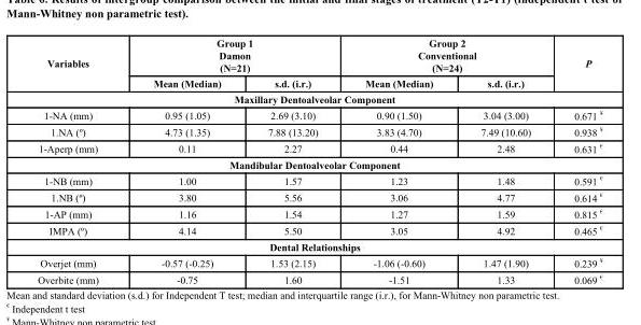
<table><thead><tr><td rowspan="2">Variables</td><td colspan="2">Group 1 Damon (N=21)</td><td colspan="2">Group 2 Conventional (N=24)</td><td rowspan="2">P</td></tr><tr><td>Mean (Median)</td><td>s.d. (i.r.)</td><td>Mean (Median)</td><td>s.d. (i.r.)</td></tr></thead><tbody><tr><td colspan="6">Maxillary Dentoalveolar Component</td></tr><tr><td>1-NA (mm)</td><td>0.95 (1.05)</td><td>2.69 (3.10)</td><td>0.90 (1.50)</td><td>3.04 (3.00)</td><td>0.671 <sup>¥</sup></td></tr><tr><td>1.NA (º)</td><td>4.73 (1.35)</td><td>7.88 (13.20)</td><td>3.83 (4.70)</td><td>7.49 (10.60)</td><td>0.938 <sup>¥</sup></td></tr><tr><td>1-Aperp (mm)</td><td>0.11</td><td>2.27</td><td>0.44</td><td>2.48</td><td>0.631 <sup>€</sup></td></tr><tr><td colspan="6">Mandibular Dentoalveolar Component</td></tr><tr><td>1-NB (mm)</td><td>1.00</td><td>1.57</td><td>1.23</td><td>1.48</td><td>0.591 <sup>€</sup></td></tr><tr><td>1.NB (º)</td><td>3.80</td><td>5.56</td><td>3.06</td><td>4.77</td><td>0.614 <sup>€</sup></td></tr><tr><td>1-AP (mm)</td><td>1.16</td><td>1.54</td><td>1.27</td><td>1.59</td><td>0.815 <sup>€</sup></td></tr><tr><td>IMPA (º)</td><td>4.14</td><td>5.50</td><td>3.05</td><td>4.92</td><td>0.465 <sup>€</sup></td></tr><tr><td colspan="6">Dental Relationships</td></tr><tr><td>Overjet (mm)</td><td>-0.57 (-0.25)</td><td>1.53 (2.15)</td><td>-1.06 (-0.60)</td><td>1.47 (1.90)</td><td>0.239 <sup>¥</sup></td></tr><tr><td>Overbite (mm)</td><td>-0.75</td><td>1.60</td><td>-1.51</td><td>1.33</td><td>0.069 <sup>€</sup></td></tr></tbody></table>